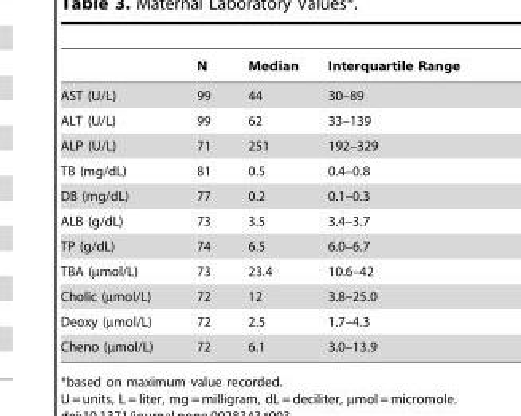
<table><thead><tr><td></td><td>N</td><td>Median</td><td>Interquartile Range</td></tr></thead><tbody><tr><td>AST (U/L)</td><td>99</td><td>44</td><td>30–89</td></tr><tr><td>ALT (U/L)</td><td>99</td><td>62</td><td>33–139</td></tr><tr><td>ALP (U/L)</td><td>71</td><td>251</td><td>192–329</td></tr><tr><td>TB (mg/dL)</td><td>81</td><td>0.5</td><td>0.4–0.8</td></tr><tr><td>DB (mg/dL)</td><td>77</td><td>0.2</td><td>0.1–0.3</td></tr><tr><td>ALB (g/dL)</td><td>73</td><td>3.5</td><td>3.4–3.7</td></tr><tr><td>TP (g/dL)</td><td>74</td><td>6.5</td><td>6.0–6.7</td></tr><tr><td>TBA (µmol/L)</td><td>73</td><td>23.4</td><td>10.6–42</td></tr><tr><td>Cholic (µmol/L)</td><td>72</td><td>12</td><td>3.8–25.0</td></tr><tr><td>Deoxy (µmol/L)</td><td>72</td><td>2.5</td><td>1.7–4.3</td></tr><tr><td>Cheno (µmol/L)</td><td>72</td><td>6.1</td><td>3.0–13.9</td></tr></tbody></table>